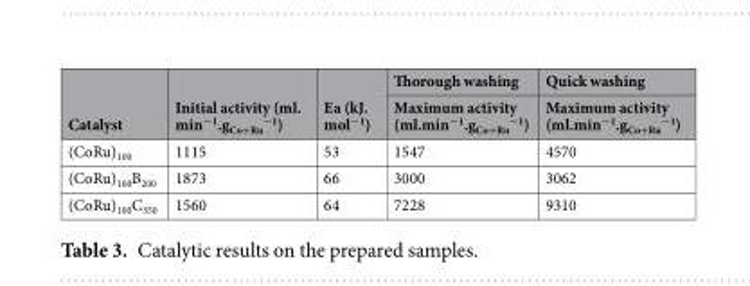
<table><thead><tr><td rowspan="2">Catalyst</td><td rowspan="2">Initial activity (ml. min<sup>−1</sup>.g<sub>Co+Ru</sub> <sup>−1</sup>)</td><td rowspan="2">Ea (kJ. mol<sup>−1</sup>)</td><td rowspan="2">Thorough washing Maximum activity (ml.min<sup>−1</sup>.g<sub>Co+Ru</sub> <sup>−1</sup>)</td><td rowspan="2">Quick washing Maximum activity (ml.min<sup>−1</sup>.g<sub>Co+Ru</sub> <sup>−1</sup>)</td></tr><tr></tr></thead><tbody><tr><td>(CoRu)<sub>100</sub></td><td>1115</td><td>53</td><td>1547</td><td>4570</td></tr><tr><td>(CoRu)<sub>100</sub>B<sub>200</sub></td><td>1873</td><td>66</td><td>3000</td><td>3062</td></tr><tr><td>(CoRu)<sub>100</sub>C<sub>350</sub></td><td>1560</td><td>64</td><td>7228</td><td>9310</td></tr></tbody></table>